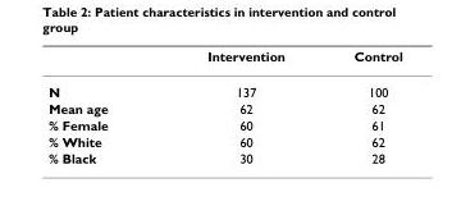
<table><thead><tr><td></td><td>Intervention</td><td>Control</td></tr></thead><tbody><tr><td>N</td><td>137</td><td>100</td></tr><tr><td>Mean age</td><td>62</td><td>62</td></tr><tr><td>% Female</td><td>60</td><td>61</td></tr><tr><td>% White</td><td>60</td><td>62</td></tr><tr><td>% Black</td><td>30</td><td>28</td></tr></tbody></table>